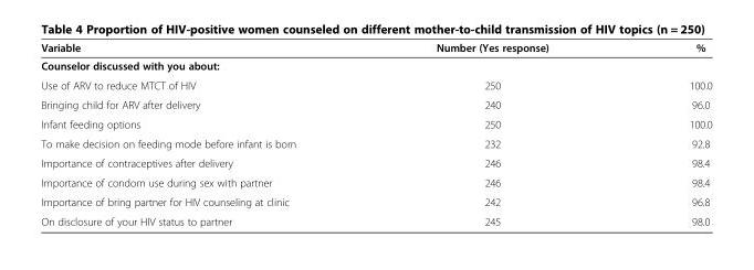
<table><thead><tr><td>Variable</td><td>Number (Yes response)</td><td>%</td></tr></thead><tbody><tr><td colspan="3">Counselor discussed with you about:</td></tr><tr><td>Use of ARV to reduce MTCT of HIV</td><td>250</td><td>100.0</td></tr><tr><td>Bringing child for ARV after delivery</td><td>240</td><td>96.0</td></tr><tr><td>Infant feeding options</td><td>250</td><td>100.0</td></tr><tr><td>To make decision on feeding mode before infant is born</td><td>232</td><td>92.8</td></tr><tr><td>Importance of contraceptives after delivery</td><td>246</td><td>98.4</td></tr><tr><td>Importance of condom use during sex with partner</td><td>246</td><td>98.4</td></tr><tr><td>Importance of bring partner for HIV counseling at clinic</td><td>242</td><td>96.8</td></tr><tr><td>On disclosure of your HIV status to partner</td><td>245</td><td>98.0</td></tr></tbody></table>